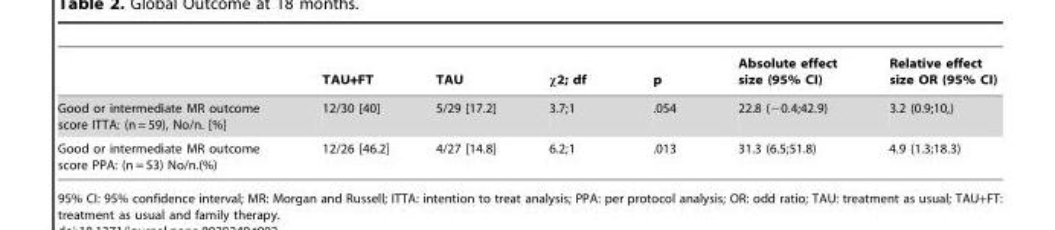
<table><thead><tr><td></td><td>TAU+FT</td><td>TAU</td><td>χ2; df</td><td>p</td><td>Absolute effect size (95% CI)</td><td>Relative effect size OR (95% CI)</td></tr></thead><tbody><tr><td>Good or intermediate MR outcome score ITTA: (n = 59), No/n. [%]</td><td>12/30 [40]</td><td>5/29 [17.2]</td><td>3.7;1</td><td>.054</td><td>22.8 (−0.4;42.9)</td><td>3.2 (0.9;10,)</td></tr><tr><td>Good or intermediate MR outcome score PPA: (n = 53) No/n.(%)</td><td>12/26 [46.2]</td><td>4/27 [14.8]</td><td>6.2;1</td><td>.013</td><td>31.3 (6.5;51.8)</td><td>4.9 (1.3;18.3)</td></tr></tbody></table>